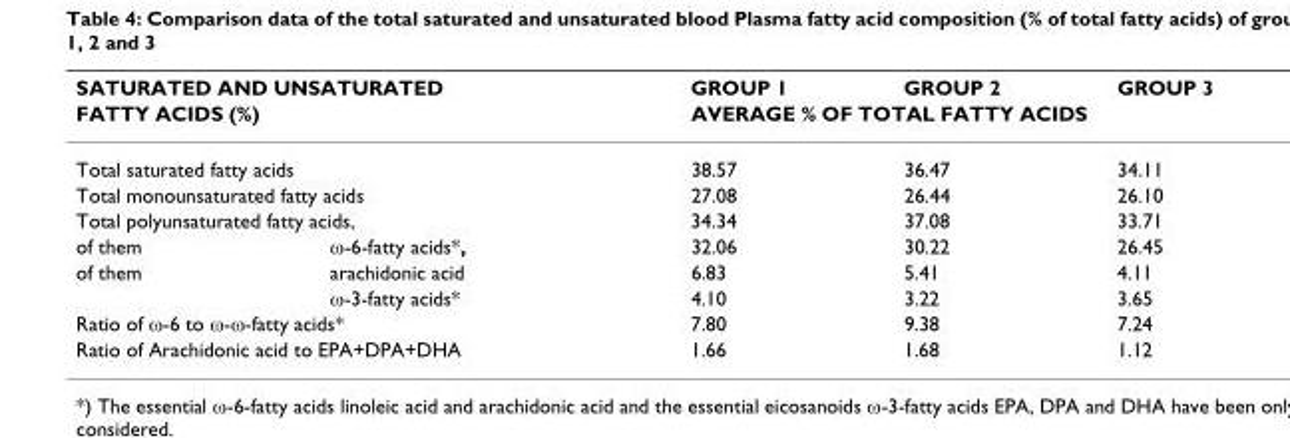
<table><thead><tr><td rowspan="2" colspan="2">SATURATED AND UNSATURATED FATTY ACIDS (%)</td><td>GROUP 1</td><td>GROUP 2</td><td>GROUP 3</td></tr><tr><td colspan="3">AVERAGE % OF TOTAL FATTY ACIDS</td></tr></thead><tbody><tr><td colspan="2">Total saturated fatty acids</td><td>38.57</td><td>36.47</td><td>34.11</td></tr><tr><td colspan="2">Total monounsaturated fatty acids</td><td>27.08</td><td>26.44</td><td>26.10</td></tr><tr><td colspan="2">Total polyunsaturated fatty acids,</td><td>34.34</td><td>37.08</td><td>33.71</td></tr><tr><td>of them</td><td>ω-6-fatty acids*,</td><td>32.06</td><td>30.22</td><td>26.45</td></tr><tr><td rowspan="2">of them</td><td>arachidonic acid</td><td>6.83</td><td>5.41</td><td>4.11</td></tr><tr><td>ω-3-fatty acids*</td><td>4.10</td><td>3.22</td><td>3.65</td></tr><tr><td colspan="2">Ratio of ω-6 to ω-ω-fatty acids*</td><td>7.80</td><td>9.38</td><td>7.24</td></tr><tr><td colspan="2">Ratio of Arachidonic acid to EPA+DPA+DHA</td><td>1.66</td><td>1.68</td><td>1.12</td></tr></tbody></table>